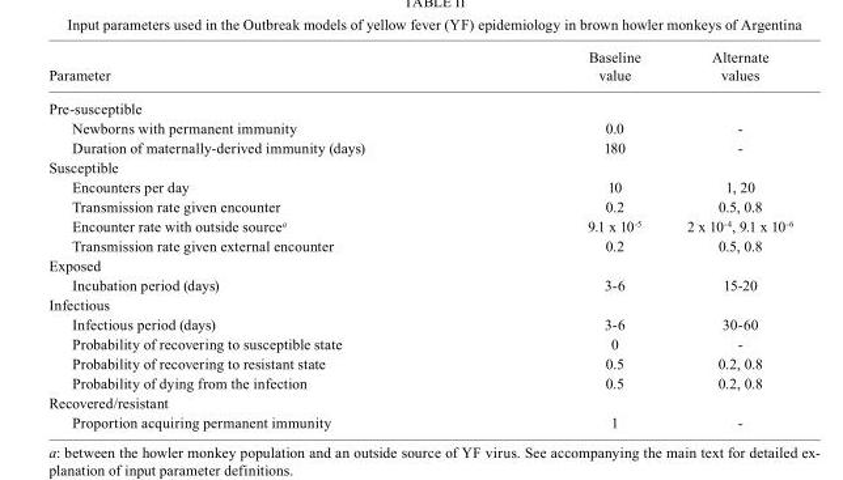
<table><thead><tr><td>Parameter</td><td>Baseline value</td><td>Alternate values</td></tr></thead><tbody><tr><td colspan="3">Pre-susceptible</td></tr><tr><td>Newborns with permanent immunity</td><td>0.0</td><td>-</td></tr><tr><td>Duration of maternally-derived immunity (days)</td><td>180</td><td>-</td></tr><tr><td colspan="3">Susceptible</td></tr><tr><td>Encounters per day</td><td>10</td><td>1, 20</td></tr><tr><td>Transmission rate given encounter</td><td>0.2</td><td>0.5, 0.8</td></tr><tr><td>Encounter rate with outside source<sup>a</sup></td><td>9.1 x 10<sup>-5</sup></td><td>2 x 10<sup>-4</sup>, 9.1 x 10<sup>-6</sup></td></tr><tr><td>Transmission rate given external encounter</td><td>0.2</td><td>0.5, 0.8</td></tr><tr><td colspan="3">Exposed</td></tr><tr><td>Incubation period (days)</td><td>3-6</td><td>15-20</td></tr><tr><td colspan="3">Infectious</td></tr><tr><td>Infectious period (days)</td><td>3-6</td><td>30-60</td></tr><tr><td>Probability of recovering to susceptible state</td><td>0</td><td>-</td></tr><tr><td>Probability of recovering to resistant state</td><td>0.5</td><td>0.2, 0.8</td></tr><tr><td>Probability of dying from the infection</td><td>0.5</td><td>0.2, 0.8</td></tr><tr><td colspan="3">Recovered/resistant</td></tr><tr><td>Proportion acquiring permanent immunity</td><td>1</td><td>-</td></tr></tbody></table>